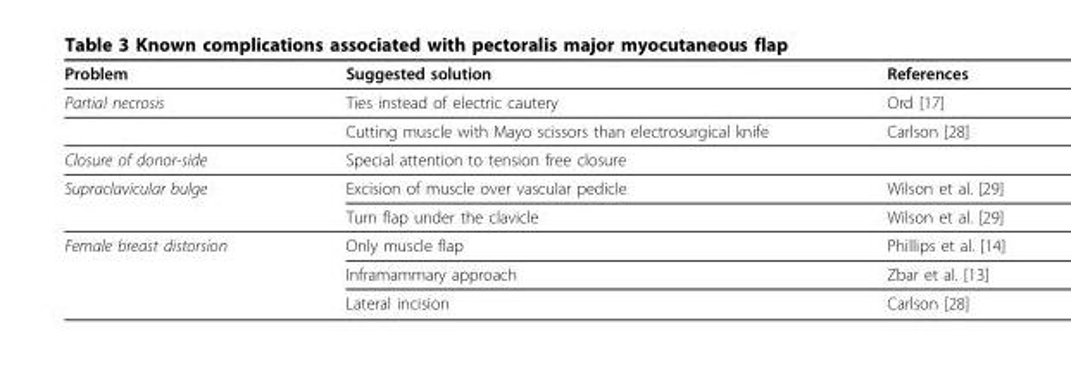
<table><thead><tr><td>Problem</td><td>Suggested solution</td><td>References</td></tr></thead><tbody><tr><td rowspan="2">Partial necrosis</td><td>Ties instead of electric cautery</td><td>Ord [17]</td></tr><tr><td>Cutting muscle with Mayo scissors than electrosurgical knife</td><td>Carlson [28]</td></tr><tr><td>Closure of donor-side</td><td>Special attention to tension free closure</td><td></td></tr><tr><td rowspan="2">Supraclavicular bulge</td><td>Excision of muscle over vascular pedicle</td><td>Wilson et al. [29]</td></tr><tr><td>Turn flap under the clavicle</td><td>Wilson et al. [29]</td></tr><tr><td rowspan="3">Female breast distorsion</td><td>Only muscle flap</td><td>Phillips et al. [14]</td></tr><tr><td>Inframammary approach</td><td>Zbar et al. [13]</td></tr><tr><td>Lateral incision</td><td>Carlson [28]</td></tr></tbody></table>